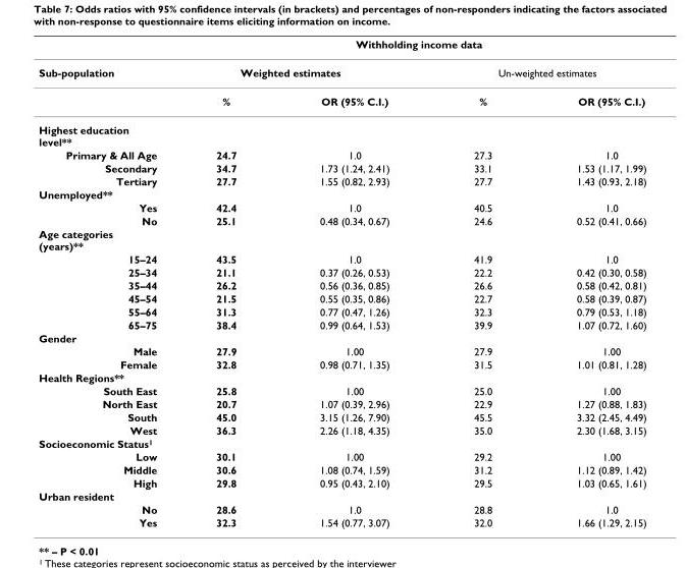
<table><thead><tr><td rowspan="3">Sub-population</td><td colspan="4">Withholding income data</td></tr><tr><td colspan="2">Weighted estimates</td><td colspan="2">Un-weighted estimates</td></tr><tr><td>%</td><td>OR (95% C.I.)</td><td>%</td><td>OR (95% C.I.)</td></tr></thead><tbody><tr><td colspan="5">Highest education level**</td></tr><tr><td>Primary &amp; All Age</td><td>24.7</td><td>1.0</td><td>27.3</td><td>1.0</td></tr><tr><td>Secondary</td><td>34.7</td><td>1.73 (1.24, 2.41)</td><td>33.1</td><td>1.53 (1.17, 1.99)</td></tr><tr><td>Tertiary</td><td>27.7</td><td>1.55 (0.82, 2.93)</td><td>27.7</td><td>1.43 (0.93, 2.18)</td></tr><tr><td colspan="5">Unemployed**</td></tr><tr><td>Yes</td><td>42.4</td><td>1.0</td><td>40.5</td><td>1.0</td></tr><tr><td>No</td><td>25.1</td><td>0.48 (0.34, 0.67)</td><td>24.6</td><td>0.52 (0.41, 0.66)</td></tr><tr><td colspan="5">Age categories (years)**</td></tr><tr><td>15–24</td><td>43.5</td><td>1.0</td><td>41.9</td><td>1.0</td></tr><tr><td>25–34</td><td>21.1</td><td>0.37 (0.26, 0.53)</td><td>22.2</td><td>0.42 (0.30, 0.58)</td></tr><tr><td>35–44</td><td>26.2</td><td>0.56 (0.36, 0.85)</td><td>26.6</td><td>0.58 (0.42, 0.81)</td></tr><tr><td>45–54</td><td>21.5</td><td>0.55 (0.35, 0.86)</td><td>22.7</td><td>0.58 (0.39, 0.87)</td></tr><tr><td>55–64</td><td>31.3</td><td>0.77 (0.47, 1.26)</td><td>32.3</td><td>0.79 (0.53, 1.18)</td></tr><tr><td>65–75</td><td>38.4</td><td>0.99 (0.64, 1.53)</td><td>39.9</td><td>1.07 (0.72, 1.60)</td></tr><tr><td colspan="5">Gender</td></tr><tr><td>Male</td><td>27.9</td><td>1.00</td><td>27.9</td><td>1.00</td></tr><tr><td>Female</td><td>32.8</td><td>0.98 (0.71, 1.35)</td><td>31.5</td><td>1.01 (0.81, 1.28)</td></tr><tr><td colspan="5">Health Regions**</td></tr><tr><td>South East</td><td>25.8</td><td>1.00</td><td>25.0</td><td>1.00</td></tr><tr><td>North East</td><td>20.7</td><td>1.07 (0.39, 2.96)</td><td>22.9</td><td>1.27 (0.88, 1.83)</td></tr><tr><td>South</td><td>45.0</td><td>3.15 (1.26, 7.90)</td><td>45.5</td><td>3.32 (2.45, 4.49)</td></tr><tr><td>West</td><td>36.3</td><td>2.26 (1.18, 4.35)</td><td>35.0</td><td>2.30 (1.68, 3.15)</td></tr><tr><td colspan="5">Socioeconomic Status<sup>1</sup></td></tr><tr><td>Low</td><td>30.1</td><td>1.00</td><td>29.2</td><td>1.00</td></tr><tr><td>Middle</td><td>30.6</td><td>1.08 (0.74, 1.59)</td><td>31.2</td><td>1.12 (0.89, 1.42)</td></tr><tr><td>High</td><td>29.8</td><td>0.95 (0.43, 2.10)</td><td>29.5</td><td>1.03 (0.65, 1.61)</td></tr><tr><td colspan="5">Urban resident</td></tr><tr><td>No</td><td>28.6</td><td>1.0</td><td>28.8</td><td>1.0</td></tr><tr><td>Yes</td><td>32.3</td><td>1.54 (0.77, 3.07)</td><td>32.0</td><td>1.66 (1.29, 2.15)</td></tr></tbody></table>